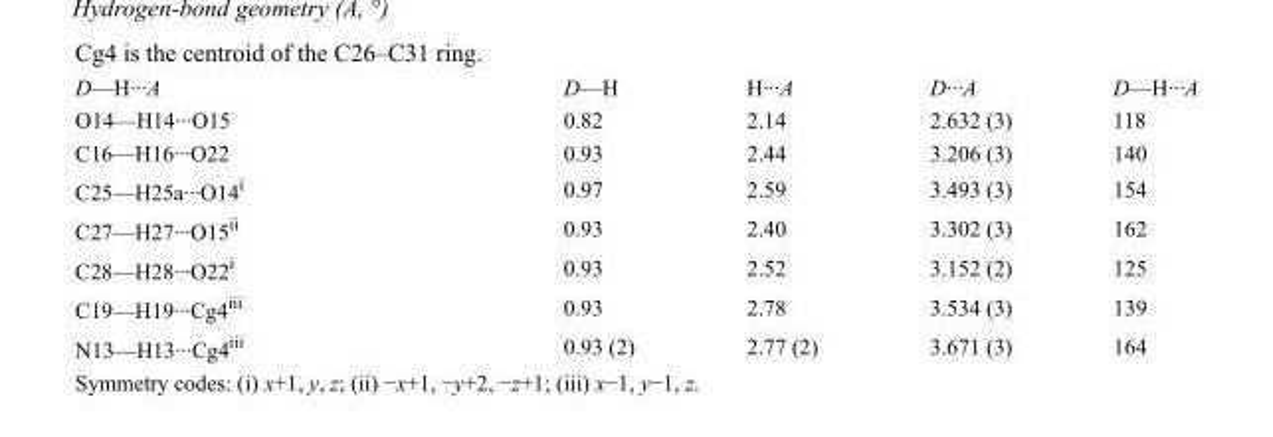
<table><tbody><tr><td>D—H···A</td><td>D—H</td><td>H···A</td><td>D···A</td><td>D—H···A</td></tr><tr><td>O14—H14···O15</td><td>0.82</td><td>2.14</td><td>2.632 (3)</td><td>118</td></tr><tr><td>C16—H16···O22</td><td>0.93</td><td>2.44</td><td>3.206 (3)</td><td>140</td></tr><tr><td>C25—H25a···O14<sup>i</sup></td><td>0.97</td><td>2.59</td><td>3.493 (3)</td><td>154</td></tr><tr><td>C27—H27···O15<sup>ii</sup></td><td>0.93</td><td>2.40</td><td>3.302 (3)</td><td>162</td></tr><tr><td>C28—H28···O22<sup>i</sup></td><td>0.93</td><td>2.52</td><td>3.152 (2)</td><td>125</td></tr><tr><td>C19—H19···Cg4<sup>iii</sup></td><td>0.93</td><td>2.78</td><td>3.534 (3)</td><td>139</td></tr><tr><td>N13—H13···Cg4<sup>iii</sup></td><td>0.93 (2)</td><td>2.77 (2)</td><td>3.671 (3)</td><td>164</td></tr></tbody></table>